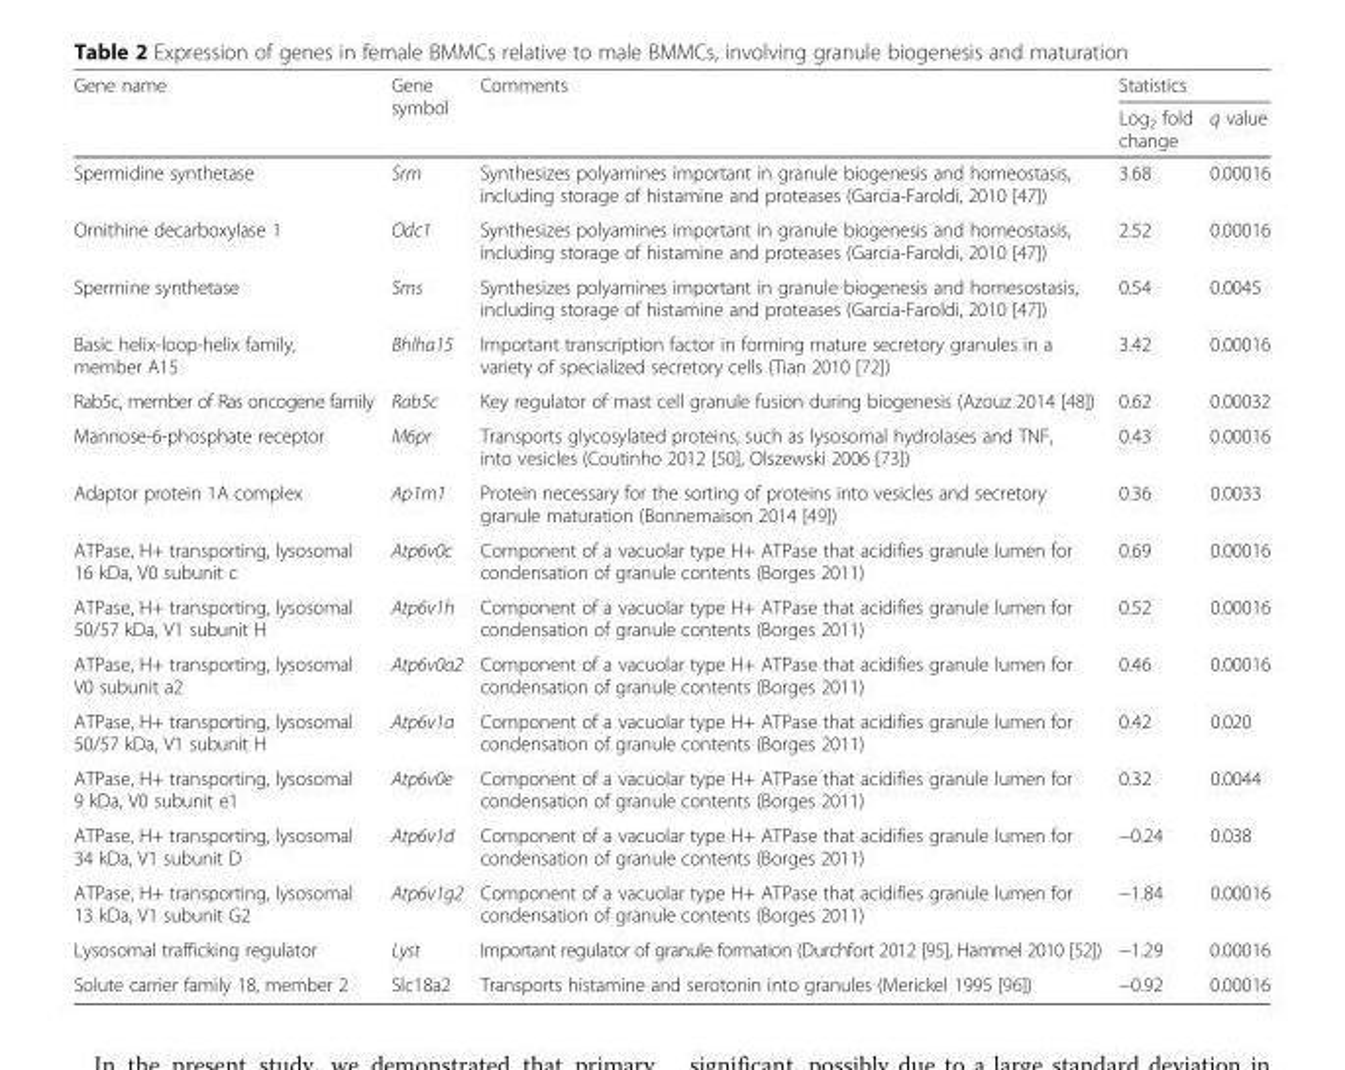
<table><thead><tr><td rowspan="2">Gene name</td><td rowspan="2">Gene symbol</td><td rowspan="2">Comments</td><td colspan="2">Statistics</td></tr><tr><td>Log<sub>2</sub> fold change</td><td>q value</td></tr></thead><tbody><tr><td>Spermidine synthetase</td><td>Srm</td><td>Synthesizes polyamines important in granule biogenesis and homeostasis, including storage of histamine and proteases (Garcia-Faroldi, 2010 [47])</td><td>3.68</td><td>0.00016</td></tr><tr><td>Ornithine decarboxylase 1</td><td>Odc1</td><td>Synthesizes polyamines important in granule biogenesis and homeostasis, including storage of histamine and proteases (Garcia-Faroldi, 2010 [47])</td><td>2.52</td><td>0.00016</td></tr><tr><td>Spermine synthetase</td><td>Sms</td><td>Synthesizes polyamines important in granule biogenesis and homesostasis, including storage of histamine and proteases (Garcia-Faroldi, 2010 [47])</td><td>0.54</td><td>0.0045</td></tr><tr><td>Basic helix-loop-helix family, member A15</td><td>Bhlha15</td><td>Important transcription factor in forming mature secretory granules in a variety of specialized secretory cells (Tian 2010 [72])</td><td>3.42</td><td>0.00016</td></tr><tr><td>Rab5c, member of Ras oncogene family</td><td>Rab5c</td><td>Key regulator of mast cell granule fusion during biogenesis (Azouz 2014 [48])</td><td>0.62</td><td>0.00032</td></tr><tr><td>Mannose-6-phosphate receptor</td><td>M6pr</td><td>Transports glycosylated proteins, such as lysosomal hydrolases and TNF, into vesicles (Coutinho 2012 [50], Olszewski 2006 [73])</td><td>0.43</td><td>0.00016</td></tr><tr><td>Adaptor protein 1A complex</td><td>Ap1m1</td><td>Protein necessary for the sorting of proteins into vesicles and secretory granule maturation (Bonnemaison 2014 [49])</td><td>0.36</td><td>0.0033</td></tr><tr><td>ATPase, H+ transporting, lysosomal 16 kDa, V0 subunit c</td><td>Atp6v0c</td><td>Component of a vacuolar type H+ ATPase that acidifies granule lumen for condensation of granule contents (Borges 2011)</td><td>0.69</td><td>0.00016</td></tr><tr><td>ATPase, H+ transporting, lysosomal 50/57 kDa, V1 subunit H</td><td>Atp6v1h</td><td>Component of a vacuolar type H+ ATPase that acidifies granule lumen for condensation of granule contents (Borges 2011)</td><td>0.52</td><td>0.00016</td></tr><tr><td>ATPase, H+ transporting, lysosomal V0 subunit a2</td><td>Atp6v0a2</td><td>Component of a vacuolar type H+ ATPase that acidifies granule lumen for condensation of granule contents (Borges 2011)</td><td>0.46</td><td>0.00016</td></tr><tr><td>ATPase, H+ transporting, lysosomal 50/57 kDa, V1 subunit H</td><td>Atp6v1a</td><td>Component of a vacuolar type H+ ATPase that acidifies granule lumen for condensation of granule contents (Borges 2011)</td><td>0.42</td><td>0.020</td></tr><tr><td>ATPase, H+ transporting, lysosomal 9 kDa, V0 subunit e1</td><td>Atp6v0e</td><td>Component of a vacuolar type H+ ATPase that acidifies granule lumen for condensation of granule contents (Borges 2011)</td><td>0.32</td><td>0.0044</td></tr><tr><td>ATPase, H+ transporting, lysosomal 34 kDa, V1 subunit D</td><td>Atp6v1d</td><td>Component of a vacuolar type H+ ATPase that acidifies granule lumen for condensation of granule contents (Borges 2011)</td><td>−0.24</td><td>0.038</td></tr><tr><td>ATPase, H+ transporting, lysosomal 13 kDa, V1 subunit G2</td><td>Atp6v1g2</td><td>Component of a vacuolar type H+ ATPase that acidifies granule lumen for condensation of granule contents (Borges 2011)</td><td>−1.84</td><td>0.00016</td></tr><tr><td>Lysosomal trafficking regulator</td><td>Lyst</td><td>Important regulator of granule formation (Durchfort 2012 [95], Hammel 2010 [52])</td><td>−1.29</td><td>0.00016</td></tr><tr><td>Solute carrier family 18, member 2</td><td>Slc18a2</td><td>Transports histamine and serotonin into granules (Merickel 1995 [96])</td><td>−0.92</td><td>0.00016</td></tr></tbody></table>